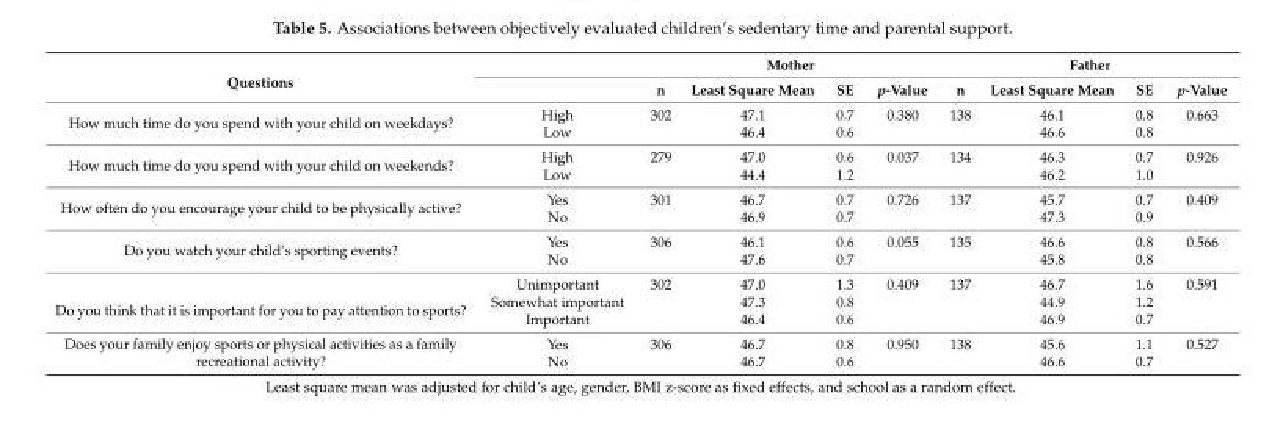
<table><thead><tr><td rowspan="2">Questions</td><td rowspan="2"></td><td colspan="4">Mother</td><td colspan="4">Father</td></tr><tr><td>n</td><td>Least Square Mean</td><td>SE</td><td>p-Value</td><td>n</td><td>Least Square Mean</td><td>SE</td><td>p-Value</td></tr></thead><tbody><tr><td rowspan="2">How much time do you spend with your child on weekdays?</td><td>High</td><td>302</td><td>47.1</td><td>0.7</td><td>0.380</td><td>138</td><td>46.1</td><td>0.8</td><td>0.663</td></tr><tr><td>Low</td><td></td><td>46.4</td><td>0.6</td><td></td><td></td><td>46.6</td><td>0.8</td><td></td></tr><tr><td rowspan="2">How much time do you spend with your child on weekends?</td><td>High</td><td>279</td><td>47.0</td><td>0.6</td><td>0.037</td><td>134</td><td>46.3</td><td>0.7</td><td>0.926</td></tr><tr><td>Low</td><td></td><td>44.4</td><td>1.2</td><td></td><td></td><td>46.2</td><td>1.0</td><td></td></tr><tr><td rowspan="2">How often do you encourage your child to be physically active?</td><td>Yes</td><td>301</td><td>46.7</td><td>0.7</td><td>0.726</td><td>137</td><td>45.7</td><td>0.7</td><td>0.409</td></tr><tr><td>No</td><td></td><td>46.9</td><td>0.7</td><td></td><td></td><td>47.3</td><td>0.9</td><td></td></tr><tr><td rowspan="2">Do you watch your child’s sporting events?</td><td>Yes</td><td>306</td><td>46.1</td><td>0.6</td><td>0.055</td><td>135</td><td>46.6</td><td>0.8</td><td>0.566</td></tr><tr><td>No</td><td></td><td>47.6</td><td>0.7</td><td></td><td></td><td>45.8</td><td>0.8</td><td></td></tr><tr><td rowspan="3">Do you think that it is important for you to pay attention to sports?</td><td>Unimportant</td><td>302</td><td>47.0</td><td>1.3</td><td>0.409</td><td>137</td><td>46.7</td><td>1.6</td><td>0.591</td></tr><tr><td>Somewhat important</td><td></td><td>47.3</td><td>0.8</td><td></td><td></td><td>44.9</td><td>1.2</td><td></td></tr><tr><td>Important</td><td></td><td>46.4</td><td>0.6</td><td></td><td></td><td>46.9</td><td>0.7</td><td></td></tr><tr><td rowspan="2">Does your family enjoy sports or physical activities as a family recreational activity?</td><td>Yes</td><td>306</td><td>46.7</td><td>0.8</td><td>0.950</td><td>138</td><td>45.6</td><td>1.1</td><td>0.527</td></tr><tr><td>No</td><td></td><td>46.7</td><td>0.6</td><td></td><td></td><td>46.6</td><td>0.7</td><td></td></tr></tbody></table>